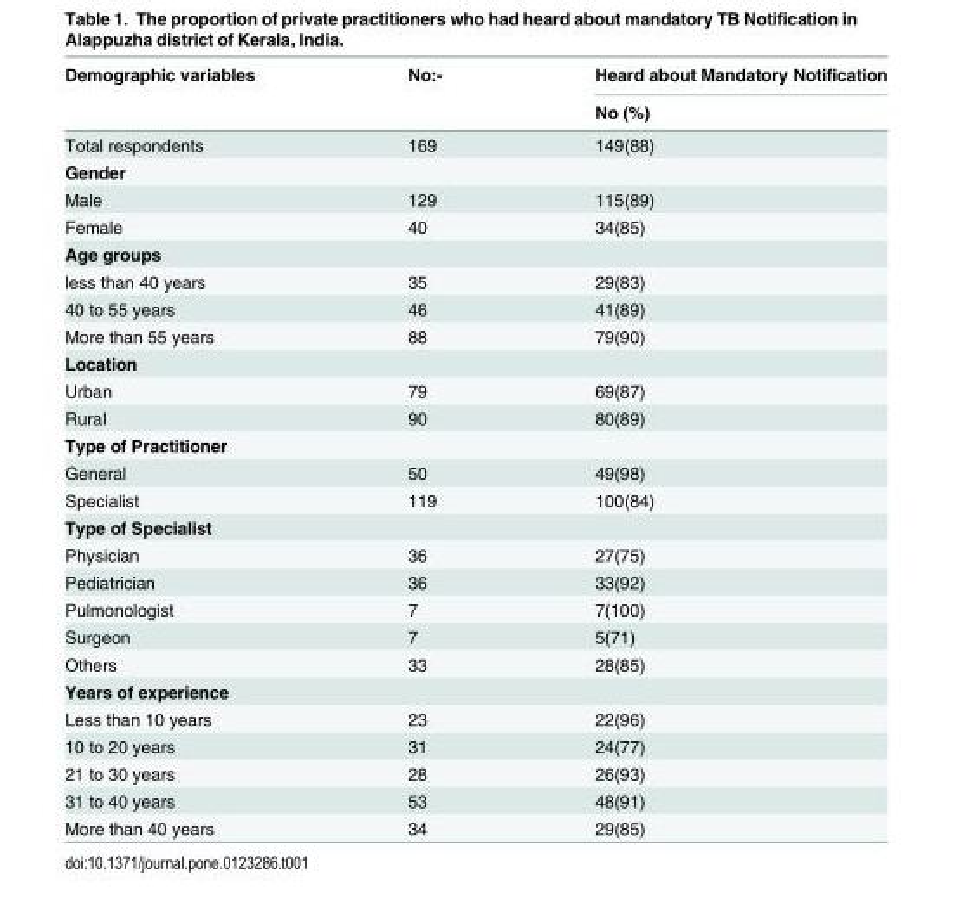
<table><thead><tr><td rowspan="2">Demographic variables</td><td rowspan="2">No:-</td><td rowspan="2">Heard about Mandatory Notification No (%)</td></tr><tr></tr></thead><tbody><tr><td>Total respondents</td><td>169</td><td>149(88)</td></tr><tr><td colspan="3">Gender</td></tr><tr><td>Male</td><td>129</td><td>115(89)</td></tr><tr><td>Female</td><td>40</td><td>34(85)</td></tr><tr><td colspan="3">Age groups</td></tr><tr><td>less than 40 years</td><td>35</td><td>29(83)</td></tr><tr><td>40 to 55 years</td><td>46</td><td>41(89)</td></tr><tr><td>More than 55 years</td><td>88</td><td>79(90)</td></tr><tr><td colspan="3">Location</td></tr><tr><td>Urban</td><td>79</td><td>69(87)</td></tr><tr><td>Rural</td><td>90</td><td>80(89)</td></tr><tr><td colspan="3">Type of Practitioner</td></tr><tr><td>General</td><td>50</td><td>49(98)</td></tr><tr><td>Specialist</td><td>119</td><td>100(84)</td></tr><tr><td colspan="3">Type of Specialist</td></tr><tr><td>Physician</td><td>36</td><td>27(75)</td></tr><tr><td>Pediatrician</td><td>36</td><td>33(92)</td></tr><tr><td>Pulmonologist</td><td>7</td><td>7(100)</td></tr><tr><td>Surgeon</td><td>7</td><td>5(71)</td></tr><tr><td>Others</td><td>33</td><td>28(85)</td></tr><tr><td colspan="3">Years of experience</td></tr><tr><td>Less than 10 years</td><td>23</td><td>22(96)</td></tr><tr><td>10 to 20 years</td><td>31</td><td>24(77)</td></tr><tr><td>21 to 30 years</td><td>28</td><td>26(93)</td></tr><tr><td>31 to 40 years</td><td>53</td><td>48(91)</td></tr><tr><td>More than 40 years</td><td>34</td><td>29(85)</td></tr></tbody></table>